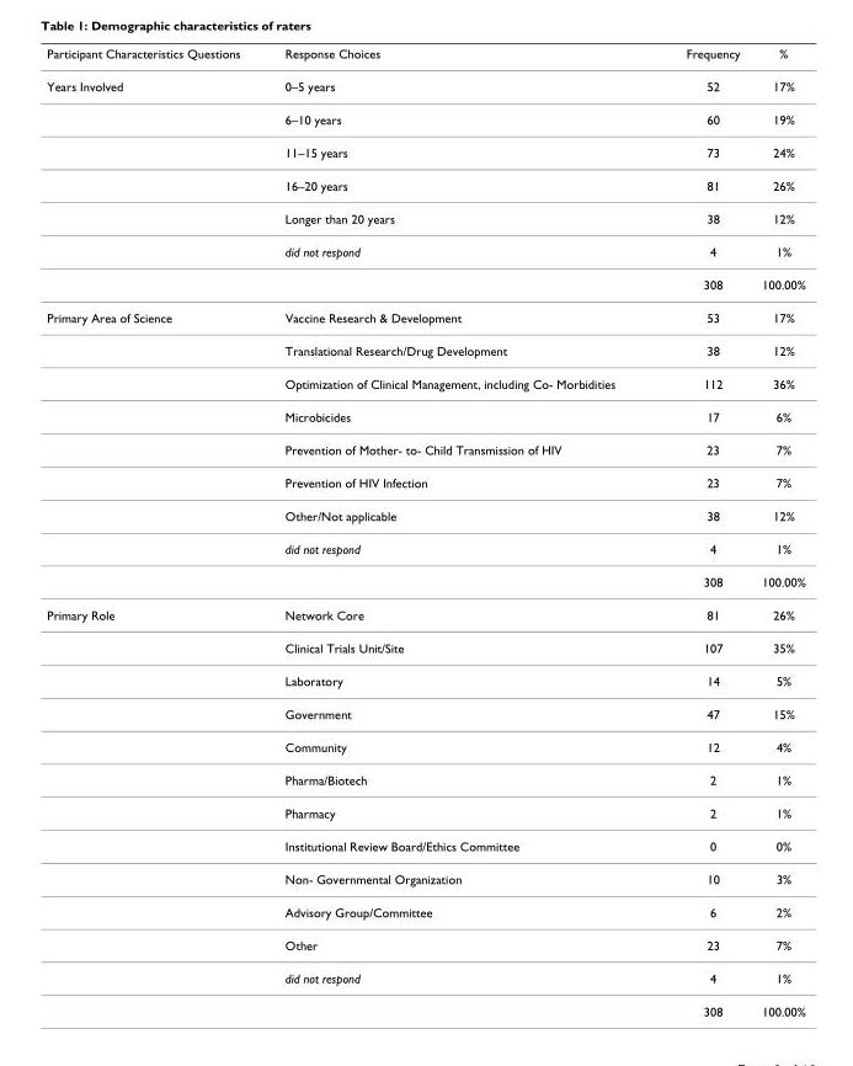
<table><thead><tr><td>Participant Characteristics Questions</td><td>Response Choices</td><td>Frequency</td><td>%</td></tr></thead><tbody><tr><td rowspan="7">Years Involved</td><td>0–5 years</td><td>52</td><td>17%</td></tr><tr><td>6–10 years</td><td>60</td><td>19%</td></tr><tr><td>11–15 years</td><td>73</td><td>24%</td></tr><tr><td>16–20 years</td><td>81</td><td>26%</td></tr><tr><td>Longer than 20 years</td><td>38</td><td>12%</td></tr><tr><td>did not respond</td><td>4</td><td>1%</td></tr><tr><td></td><td>308</td><td>100.00%</td></tr><tr><td rowspan="9">Primary Area of Science</td><td>Vaccine Research &amp; Development</td><td>53</td><td>17%</td></tr><tr><td>Translational Research/Drug Development</td><td>38</td><td>12%</td></tr><tr><td>Optimization of Clinical Management, including Co- Morbidities</td><td>112</td><td>36%</td></tr><tr><td>Microbicides</td><td>17</td><td>6%</td></tr><tr><td>Prevention of Mother- to- Child Transmission of HIV</td><td>23</td><td>7%</td></tr><tr><td>Prevention of HIV Infection</td><td>23</td><td>7%</td></tr><tr><td>Other/Not applicable</td><td>38</td><td>12%</td></tr><tr><td>did not respond</td><td>4</td><td>1%</td></tr><tr><td></td><td>308</td><td>100.00%</td></tr><tr><td rowspan="13">Primary Role</td><td>Network Core</td><td>81</td><td>26%</td></tr><tr><td>Clinical Trials Unit/Site</td><td>107</td><td>35%</td></tr><tr><td>Laboratory</td><td>14</td><td>5%</td></tr><tr><td>Government</td><td>47</td><td>15%</td></tr><tr><td>Community</td><td>12</td><td>4%</td></tr><tr><td>Pharma/Biotech</td><td>2</td><td>1%</td></tr><tr><td>Pharmacy</td><td>2</td><td>1%</td></tr><tr><td>Institutional Review Board/Ethics Committee</td><td>0</td><td>0%</td></tr><tr><td>Non- Governmental Organization</td><td>10</td><td>3%</td></tr><tr><td>Advisory Group/Committee</td><td>6</td><td>2%</td></tr><tr><td>Other</td><td>23</td><td>7%</td></tr><tr><td>did not respond</td><td>4</td><td>1%</td></tr><tr><td></td><td>308</td><td>100.00%</td></tr></tbody></table>